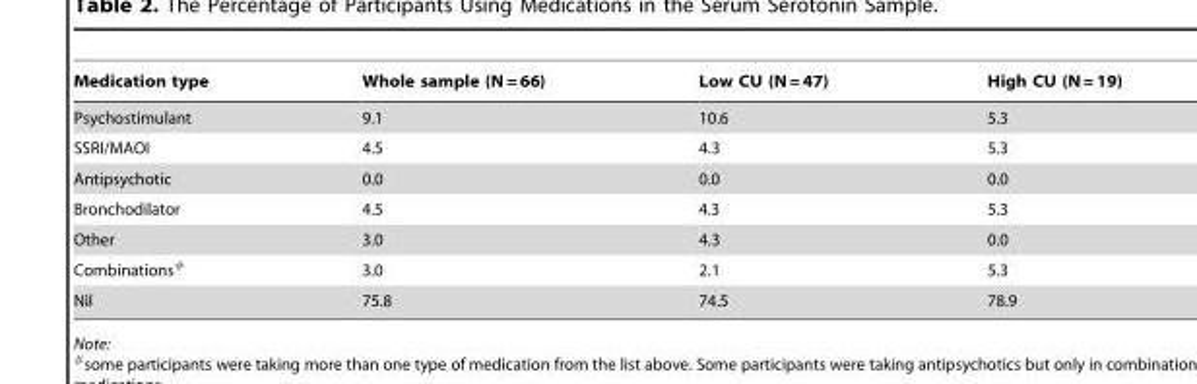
<table><thead><tr><td>Medication type</td><td>Whole sample (N = 66)</td><td>Low CU (N = 47)</td><td>High CU (N = 19)</td></tr></thead><tbody><tr><td>Psychostimulant</td><td>9.1</td><td>10.6</td><td>5.3</td></tr><tr><td>SSRI/MAOI</td><td>4.5</td><td>4.3</td><td>5.3</td></tr><tr><td>Antipsychotic</td><td>0.0</td><td>0.0</td><td>0.0</td></tr><tr><td>Bronchodilator</td><td>4.5</td><td>4.3</td><td>5.3</td></tr><tr><td>Other</td><td>3.0</td><td>4.3</td><td>0.0</td></tr><tr><td>Combinations#</td><td>3.0</td><td>2.1</td><td>5.3</td></tr><tr><td>Nil</td><td>75.8</td><td>74.5</td><td>78.9</td></tr></tbody></table>